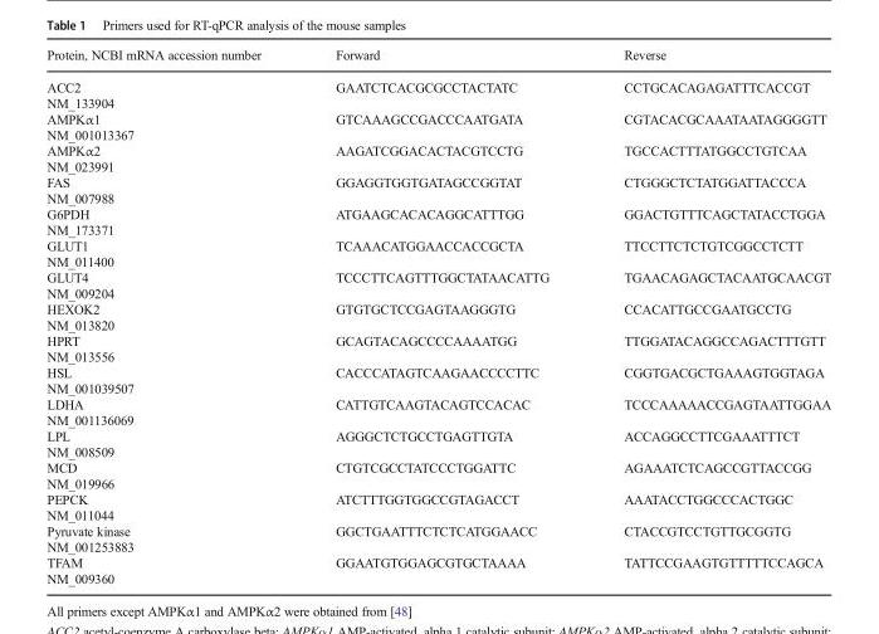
<table><thead><tr><td>Protein, NCBI mRNA accession number</td><td>Forward</td><td>Reverse</td></tr></thead><tbody><tr><td>ACC2 NM_133904</td><td>GAATCTCACGCGCCTACTATC</td><td>CCTGCACAGAGATTTCACCGT</td></tr><tr><td>AMPKα1 NM_001013367</td><td>GTCAAAGCCGACCCAATGATA</td><td>CGTACACGCAAATAATAGGGGTT</td></tr><tr><td>AMPKα2 NM_023991</td><td>AAGATCGGACACTACGTCCTG</td><td>TGCCACTTTATGGCCTGTCAA</td></tr><tr><td>FAS NM_007988</td><td>GGAGGTGGTGATAGCCGGTAT</td><td>CTGGGCTCTATGGATTACCCA</td></tr><tr><td>G6PDH NM_173371</td><td>ATGAAGCACACAGGCATTTGG</td><td>GGACTGTTTCAGCTATACCTGGA</td></tr><tr><td>GLUT1 NM_011400</td><td>TCAAACATGGAACCACCGCTA</td><td>TTCCTTCTCTGTCGGCCTCTT</td></tr><tr><td>GLUT4 NM_009204</td><td>TCCCTTCAGTTTGGCTATAACATTG</td><td>TGAACAGAGCTACAATGCAACGT</td></tr><tr><td>HEXOK2 NM_013820</td><td>GTGTGCTCCGAGTAAGGGTG</td><td>CCACATTGCCGAATGCCTG</td></tr><tr><td>HPRT NM_013556</td><td>GCAGTACAGCCCCAAAATGG</td><td>TTGGATACAGGCCAGACTTTGTT</td></tr><tr><td>HSL NM_001039507</td><td>CACCCATAGTCAAGAACCCCTTC</td><td>CGGTGACGCTGAAAGTGGTAGA</td></tr><tr><td>LDHA NM_001136069</td><td>CATTGTCAAGTACAGTCCACAC</td><td>TCCCAAAAACCGAGTAATTGGAA</td></tr><tr><td>LPL NM_008509</td><td>AGGGCTCTGCCTGAGTTGTA</td><td>ACCAGGCCTTCGAAATTTCT</td></tr><tr><td>MCD NM_019966</td><td>CTGTCGCCTATCCCTGGATTC</td><td>AGAAATCTCAGCCGTTACCGG</td></tr><tr><td>PEPCK NM_011044</td><td>ATCTTTGGTGGCCGTAGACCT</td><td>AAATACCTGGCCCACTGGC</td></tr><tr><td>Pyruvate kinase NM_001253883</td><td>GGCTGAATTTCTCTCATGGAACC</td><td>CTACCGTCCTGTTGCGGTG</td></tr><tr><td>TFAM NM_009360</td><td>GGAATGTGGAGCGTGCTAAAA</td><td>TATTCCGAAGTGTTTTTCCAGCA</td></tr></tbody></table>